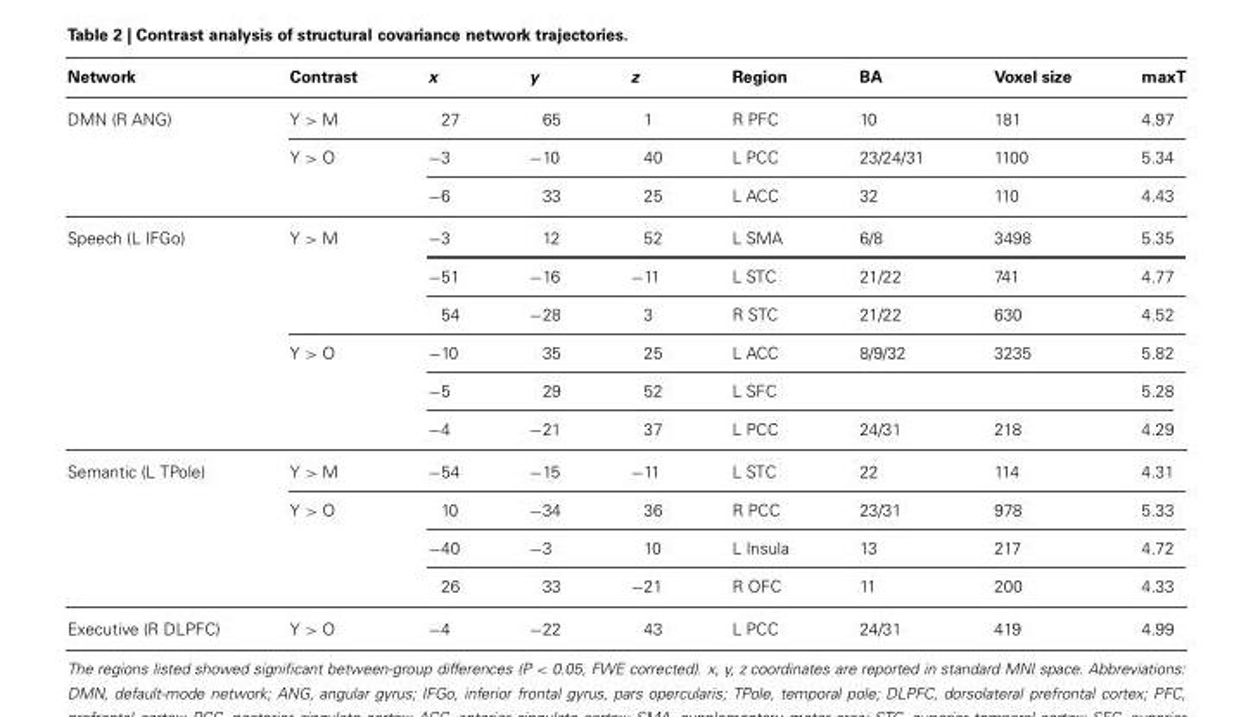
<table><thead><tr><td>Network</td><td>Contrast</td><td>x</td><td>y</td><td>z</td><td>Region</td><td>BA</td><td>Voxel size</td><td>maxT</td></tr></thead><tbody><tr><td rowspan="3">DMN (R ANG)</td><td>Y &gt; M</td><td>27</td><td>65</td><td>1</td><td>R PFC</td><td>10</td><td>181</td><td>4.97</td></tr><tr><td>Y &gt; O</td><td>−3</td><td>−10</td><td>40</td><td>L PCC</td><td>23/24/31</td><td>1100</td><td>5.34</td></tr><tr><td></td><td>−6</td><td>33</td><td>25</td><td>L ACC</td><td>32</td><td>110</td><td>4.43</td></tr><tr><td rowspan="6">Speech (L IFGo)</td><td>Y &gt; M</td><td>−3</td><td>12</td><td>52</td><td>L SMA</td><td>6/8</td><td>3498</td><td>5.35</td></tr><tr><td></td><td>−51</td><td>−16</td><td>−11</td><td>L STC</td><td>21/22</td><td>741</td><td>4.77</td></tr><tr><td></td><td>54</td><td>−28</td><td>3</td><td>R STC</td><td>21/22</td><td>630</td><td>4.52</td></tr><tr><td>Y &gt; O</td><td>−10</td><td>35</td><td>25</td><td>L ACC</td><td>8/9/32</td><td>3235</td><td>5.82</td></tr><tr><td></td><td>−5</td><td>29</td><td>52</td><td>L SFC</td><td></td><td></td><td>5.28</td></tr><tr><td></td><td>−4</td><td>−21</td><td>37</td><td>L PCC</td><td>24/31</td><td>218</td><td>4.29</td></tr><tr><td rowspan="4">Semantic (L TPole)</td><td>Y &gt; M</td><td>−54</td><td>−15</td><td>−11</td><td>L STC</td><td>22</td><td>114</td><td>4.31</td></tr><tr><td>Y &gt; O</td><td>10</td><td>−34</td><td>36</td><td>R PCC</td><td>23/31</td><td>978</td><td>5.33</td></tr><tr><td></td><td>−40</td><td>−3</td><td>10</td><td>L Insula</td><td>13</td><td>217</td><td>4.72</td></tr><tr><td></td><td>26</td><td>33</td><td>−21</td><td>R OFC</td><td>11</td><td>200</td><td>4.33</td></tr><tr><td>Executive (R DLPFC)</td><td>Y &gt; O</td><td>−4</td><td>−22</td><td>43</td><td>L PCC</td><td>24/31</td><td>419</td><td>4.99</td></tr></tbody></table>